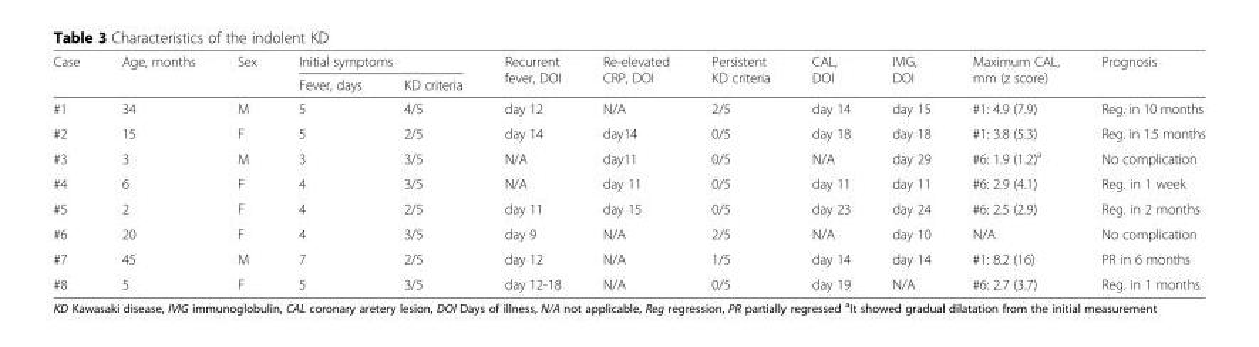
<table><thead><tr><td rowspan="2">Case</td><td rowspan="2">Age, months</td><td rowspan="2">Sex</td><td colspan="2">Initial symptoms</td><td rowspan="2">Recurrent fever, DOI</td><td rowspan="2">Re-elevated CRP, DOI</td><td rowspan="2">Persistent KD criteria</td><td rowspan="2">CAL, DOI</td><td rowspan="2">IVIG, DOI</td><td rowspan="2">Maximum CAL, mm (z score)</td><td rowspan="2">Prognosis</td></tr><tr><td>Fever, days</td><td>KD criteria</td></tr></thead><tbody><tr><td>#1</td><td>34</td><td>M</td><td>5</td><td>4/5</td><td>day 12</td><td>N/A</td><td>2/5</td><td>day 14</td><td>day 15</td><td>#1: 4.9 (7.9)</td><td>Reg. in 10 months</td></tr><tr><td>#2</td><td>15</td><td>F</td><td>5</td><td>2/5</td><td>day 14</td><td>day14</td><td>0/5</td><td>day 18</td><td>day 18</td><td>#1: 3.8 (5.3)</td><td>Reg. in 1.5 months</td></tr><tr><td>#3</td><td>3</td><td>M</td><td>3</td><td>3/5</td><td>N/A</td><td>day11</td><td>0/5</td><td>N/A</td><td>day 29</td><td>#6: 1.9 (1.2)<sup>a</sup></td><td>No complication</td></tr><tr><td>#4</td><td>6</td><td>F</td><td>4</td><td>3/5</td><td>N/A</td><td>day 11</td><td>0/5</td><td>day 11</td><td>day 11</td><td>#6: 2.9 (4.1)</td><td>Reg. in 1 week</td></tr><tr><td>#5</td><td>2</td><td>F</td><td>4</td><td>2/5</td><td>day 11</td><td>day 15</td><td>0/5</td><td>day 23</td><td>day 24</td><td>#6: 2.5 (2.9)</td><td>Reg. in 2 months</td></tr><tr><td>#6</td><td>20</td><td>F</td><td>4</td><td>3/5</td><td>day 9</td><td>N/A</td><td>2/5</td><td>N/A</td><td>day 10</td><td>N/A</td><td>No complication</td></tr><tr><td>#7</td><td>45</td><td>M</td><td>7</td><td>2/5</td><td>day 12</td><td>N/A</td><td>1/5</td><td>day 14</td><td>day 14</td><td>#1: 8.2 (16)</td><td>PR in 6 months</td></tr><tr><td>#8</td><td>5</td><td>F</td><td>5</td><td>3/5</td><td>day 12-18</td><td>N/A</td><td>0/5</td><td>day 19</td><td>N/A</td><td>#6: 2.7 (3.7)</td><td>Reg. in 1 months</td></tr></tbody></table>